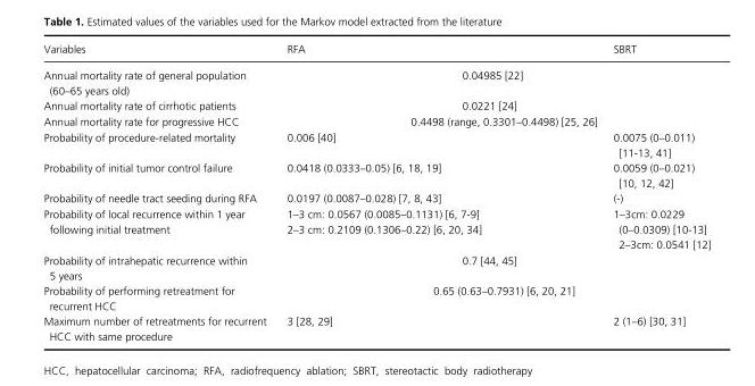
<table><thead><tr><td>Variables</td><td>RFA</td><td></td><td>SBRT</td></tr></thead><tbody><tr><td>Annual mortality rate of general population (60–65 years old)</td><td></td><td>0.04985 [22]</td><td></td></tr><tr><td>Annual mortality rate of cirrhotic patients</td><td></td><td>0.0221 [24]</td><td></td></tr><tr><td>Annual mortality rate for progressive HCC</td><td colspan="3">0.4498 (range, 0.3301–0.4498) [25, 26]</td></tr><tr><td>Probability of procedure- related mortality</td><td>0.006 [40]</td><td></td><td>0.0075 (0–0.011) [11- 13, 41]</td></tr><tr><td>Probability of initial tumor control failure</td><td>0.0418 (0.0333–0.05) [6, 18, 19]</td><td></td><td>0.0059 (0–0.021) [10, 12, 42]</td></tr><tr><td>Probability of needle tract seeding during RFA</td><td>0.0197 (0.0087–0.028) [7, 8, 43]</td><td></td><td>(- )</td></tr><tr><td>Probability of local recurrence within 1 year following initial treatment</td><td colspan="2">1–3 cm: 0.0567 (0.0085–0.1131) [6, 7- 9] 2–3 cm: 0.2109 (0.1306–0.22) [6, 20, 34]</td><td>1–3cm: 0.0229 (0–0.0309) [10- 13] 2–3cm: 0.0541 [12]</td></tr><tr><td>Probability of intrahepatic recurrence within 5 years</td><td></td><td colspan="2">0.7 [44, 45]</td></tr><tr><td>Probability of performing retreatment for recurrent HCC</td><td colspan="3">0.65 (0.63–0.7931) [6, 20, 21]</td></tr><tr><td>Maximum number of retreatments for recurrent HCC with same procedure</td><td>3 [28, 29]</td><td></td><td>2 (1–6) [30, 31]</td></tr></tbody></table>